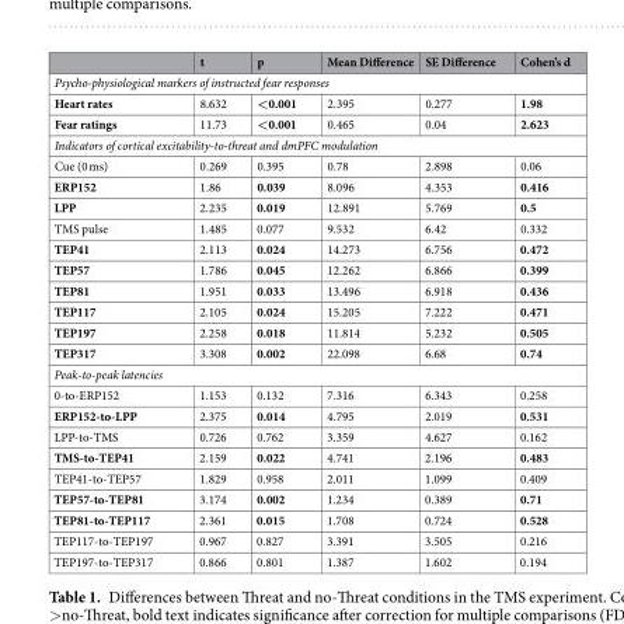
<table><thead><tr><td></td><td>t</td><td>p</td><td>Mean Difference</td><td>SE Difference</td><td>Cohen’s d</td></tr></thead><tbody><tr><td colspan="6">Psycho-physiological markers of instructed fear responses</td></tr><tr><td>Heart rates</td><td>8.632</td><td>&lt;0.001</td><td>2.395</td><td>0.277</td><td>1.98</td></tr><tr><td>Fear ratings</td><td>11.73</td><td>&lt;0.001</td><td>0.465</td><td>0.04</td><td>2.623</td></tr><tr><td colspan="6">Indicators of cortical excitability-to-threat and dmPFC modulation</td></tr><tr><td>Cue (0 ms)</td><td>0.269</td><td>0.395</td><td>0.78</td><td>2.898</td><td>0.06</td></tr><tr><td>ERP152</td><td>1.86</td><td>0.039</td><td>8.096</td><td>4.353</td><td>0.416</td></tr><tr><td>LPP</td><td>2.235</td><td>0.019</td><td>12.891</td><td>5.769</td><td>0.5</td></tr><tr><td>TMS pulse</td><td>1.485</td><td>0.077</td><td>9.532</td><td>6.42</td><td>0.332</td></tr><tr><td>TEP41</td><td>2.113</td><td>0.024</td><td>14.273</td><td>6.756</td><td>0.472</td></tr><tr><td>TEP57</td><td>1.786</td><td>0.045</td><td>12.262</td><td>6.866</td><td>0.399</td></tr><tr><td>TEP81</td><td>1.951</td><td>0.033</td><td>13.496</td><td>6.918</td><td>0.436</td></tr><tr><td>TEP117</td><td>2.105</td><td>0.024</td><td>15.205</td><td>7.222</td><td>0.471</td></tr><tr><td>TEP197</td><td>2.258</td><td>0.018</td><td>11.814</td><td>5.232</td><td>0.505</td></tr><tr><td>TEP317</td><td>3.308</td><td>0.002</td><td>22.098</td><td>6.68</td><td>0.74</td></tr><tr><td colspan="6">Peak-to-peak latencies</td></tr><tr><td>0-to-ERP152</td><td>1.153</td><td>0.132</td><td>7.316</td><td>6.343</td><td>0.258</td></tr><tr><td>ERP152-to-LPP</td><td>2.375</td><td>0.014</td><td>4.795</td><td>2.019</td><td>0.531</td></tr><tr><td>LPP-to-TMS</td><td>0.726</td><td>0.762</td><td>3.359</td><td>4.627</td><td>0.162</td></tr><tr><td>TMS-to-TEP41</td><td>2.159</td><td>0.022</td><td>4.741</td><td>2.196</td><td>0.483</td></tr><tr><td>TEP41-to-TEP57</td><td>1.829</td><td>0.958</td><td>2.011</td><td>1.099</td><td>0.409</td></tr><tr><td>TEP57-to-TEP81</td><td>3.174</td><td>0.002</td><td>1.234</td><td>0.389</td><td>0.71</td></tr><tr><td>TEP81-to-TEP117</td><td>2.361</td><td>0.015</td><td>1.708</td><td>0.724</td><td>0.528</td></tr><tr><td>TEP117-to-TEP197</td><td>0.967</td><td>0.827</td><td>3.391</td><td>3.505</td><td>0.216</td></tr><tr><td>TEP197-to-TEP317</td><td>0.866</td><td>0.801</td><td>1.387</td><td>1.602</td><td>0.194</td></tr></tbody></table>